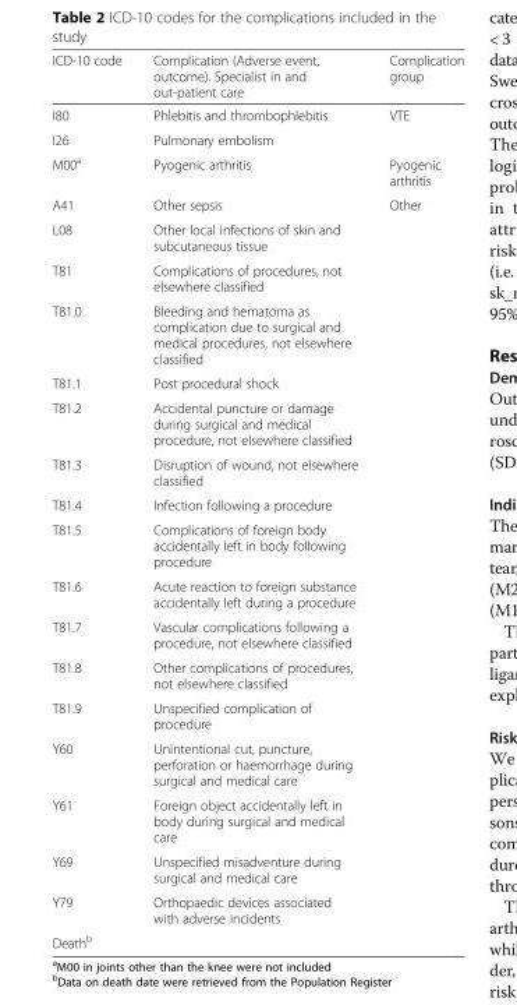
<table><thead><tr><td>ICD-10 code</td><td>Complication (Adverse event, outcome). Specialist in and out-patient care</td><td>Complication group</td></tr></thead><tbody><tr><td>I80</td><td>Phlebitis and thrombophlebitis</td><td>VTE</td></tr><tr><td>I26</td><td>Pulmonary embolism</td><td></td></tr><tr><td>M00<sup>a</sup></td><td>Pyogenic arthritis</td><td>Pyogenic arthritis</td></tr><tr><td>A41</td><td>Other sepsis</td><td>Other</td></tr><tr><td>L08</td><td>Other local infections of skin and subcutaneous tissue</td><td></td></tr><tr><td>T81</td><td>Complications of procedures, not elsewhere classified</td><td></td></tr><tr><td>T81.0</td><td>Bleeding and hematoma as complication due to surgical and medical procedures, not elsewhere classified</td><td></td></tr><tr><td>T81.1</td><td>Post procedural shock</td><td></td></tr><tr><td>T81.2</td><td>Accidental puncture or damage during surgical and medical procedure, not elsewhere classified</td><td></td></tr><tr><td>T81.3</td><td>Disruption of wound, not elsewhere classified</td><td></td></tr><tr><td>T81.4</td><td>Infection following a procedure</td><td></td></tr><tr><td>T81.5</td><td>Complications of foreign body accidentally left in body following procedure</td><td></td></tr><tr><td>T81.6</td><td>Acute reaction to foreign substance accidentally left during a procedure</td><td></td></tr><tr><td>T81.7</td><td>Vascular complications following a procedure, not elsewhere classified</td><td></td></tr><tr><td>T81.8</td><td>Other complications of procedures, not elsewhere classified</td><td></td></tr><tr><td>T81.9</td><td>Unspecified complication of procedure</td><td></td></tr><tr><td>Y60</td><td>Unintentional cut, puncture, perforation or haemorrhage during surgical and medical care</td><td></td></tr><tr><td>Y61</td><td>Foreign object accidentally left in body during surgical and medical care</td><td></td></tr><tr><td>Y69</td><td>Unspecified misadventure during surgical and medical care</td><td></td></tr><tr><td>Y79</td><td>Orthopaedic devices associated with adverse incidents</td><td></td></tr><tr><td>Death<sup>b</sup></td><td></td><td></td></tr></tbody></table>